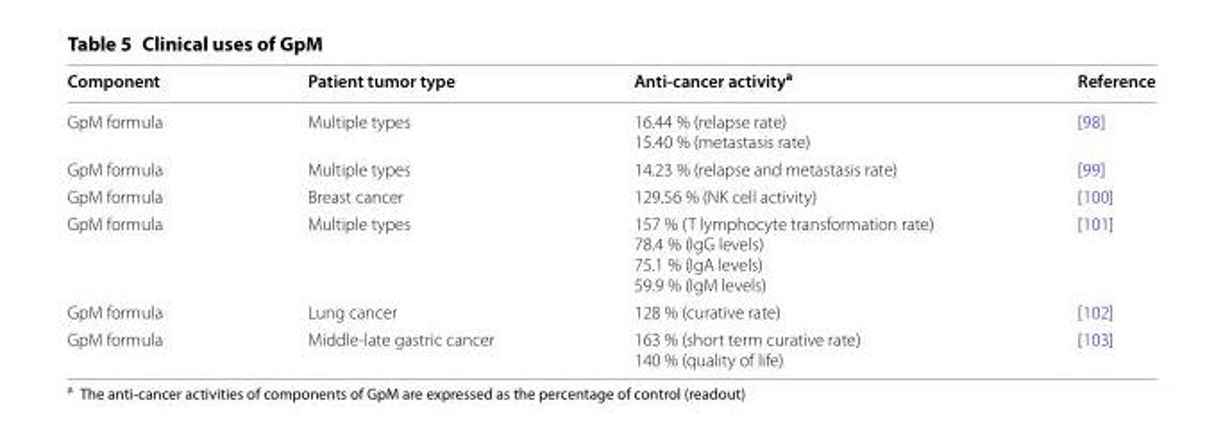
<table><thead><tr><td>Component</td><td>Patient tumor type</td><td>Anti-cancer activity<sup>a</sup></td><td>Reference</td></tr></thead><tbody><tr><td>GpM formula</td><td>Multiple types</td><td>16.44 % (relapse rate) 15.40 % (metastasis rate)</td><td>[98]</td></tr><tr><td>GpM formula</td><td>Multiple types</td><td>14.23 % (relapse and metastasis rate)</td><td>[99]</td></tr><tr><td>GpM formula</td><td>Breast cancer</td><td>129.56 % (NK cell activity)</td><td>[100]</td></tr><tr><td>GpM formula</td><td>Multiple types</td><td>157 % (T lymphocyte transformation rate) 78.4 % (IgG levels) 75.1 % (IgA levels) 59.9 % (IgM levels)</td><td>[101]</td></tr><tr><td>GpM formula</td><td>Lung cancer</td><td>128 % (curative rate)</td><td>[102]</td></tr><tr><td>GpM formula</td><td>Middle-late gastric cancer</td><td>163 % (short term curative rate) 140 % (quality of life)</td><td>[103]</td></tr></tbody></table>